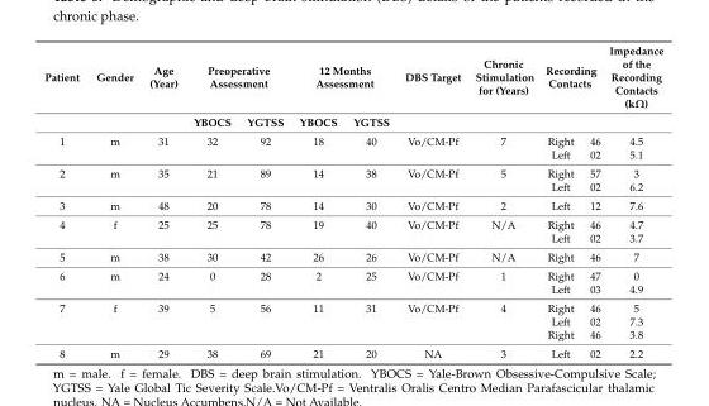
<table><thead><tr><td rowspan="2">Patient</td><td rowspan="2">Gender</td><td rowspan="2">Age (Year)</td><td colspan="2">Preoperative Assessment</td><td colspan="2">12 Months Assessment</td><td rowspan="2">DBS Target</td><td rowspan="2">Chronic Stimulation for (Years)</td><td colspan="2">Recording Contacts</td><td rowspan="2">Impedance of the Recording Contacts (kΩ)</td></tr><tr><td>YBOCS</td><td>YGTSS</td><td>YBOCS</td><td>YGTSS</td><td></td><td></td></tr></thead><tbody><tr><td rowspan="2">1</td><td>m</td><td>31</td><td>32</td><td>92</td><td>18</td><td>40</td><td>Vo/CM-Pf</td><td>7</td><td>Right</td><td>46</td><td>4.5</td></tr><tr><td></td><td></td><td></td><td></td><td></td><td></td><td></td><td></td><td>Left</td><td>02</td><td>5.1</td></tr><tr><td rowspan="2">2</td><td>m</td><td>35</td><td>21</td><td>89</td><td>14</td><td>38</td><td>Vo/CM-Pf</td><td>5</td><td>Right</td><td>57</td><td>3</td></tr><tr><td></td><td></td><td></td><td></td><td></td><td></td><td></td><td></td><td>Left</td><td>02</td><td>6.2</td></tr><tr><td>3</td><td>m</td><td>48</td><td>20</td><td>78</td><td>14</td><td>30</td><td>Vo/CM-Pf</td><td>2</td><td>Left</td><td>12</td><td>7.6</td></tr><tr><td rowspan="2">4</td><td>f</td><td>25</td><td>25</td><td>78</td><td>19</td><td>40</td><td>Vo/CM-Pf</td><td>N/A</td><td>Right</td><td>46</td><td>4.7</td></tr><tr><td></td><td></td><td></td><td></td><td></td><td></td><td></td><td></td><td>Left</td><td>02</td><td>3.7</td></tr><tr><td>5</td><td>m</td><td>38</td><td>30</td><td>42</td><td>26</td><td>26</td><td>Vo/CM-Pf</td><td>N/A</td><td>Right</td><td>46</td><td>7</td></tr><tr><td rowspan="2">6</td><td>m</td><td>24</td><td>0</td><td>28</td><td>2</td><td>25</td><td>Vo/CM-Pf</td><td>1</td><td>Right</td><td>47</td><td>0</td></tr><tr><td></td><td></td><td></td><td></td><td></td><td></td><td></td><td></td><td>Left</td><td>03</td><td>4.9</td></tr><tr><td rowspan="3">7</td><td>f</td><td>39</td><td>5</td><td>56</td><td>11</td><td>31</td><td>Vo/CM-Pf</td><td>4</td><td>Right</td><td>46</td><td>5</td></tr><tr><td></td><td></td><td></td><td></td><td></td><td></td><td></td><td></td><td>Left</td><td>02</td><td>7.3</td></tr><tr><td></td><td></td><td></td><td></td><td></td><td></td><td></td><td></td><td>Right</td><td>46</td><td>3.8</td></tr><tr><td>8</td><td>m</td><td>29</td><td>38</td><td>69</td><td>21</td><td>20</td><td>NA</td><td>3</td><td>Left</td><td>02</td><td>2.2</td></tr></tbody></table>